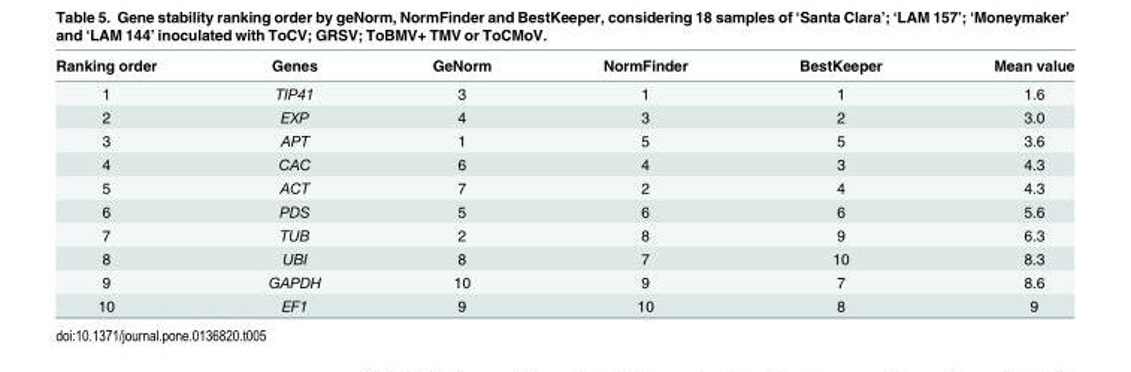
<table><thead><tr><td>Ranking order</td><td>Genes</td><td>GeNorm</td><td>NormFinder</td><td>BestKeeper</td><td>Mean value</td></tr></thead><tbody><tr><td>1</td><td>TIP41</td><td>3</td><td>1</td><td>1</td><td>1.6</td></tr><tr><td>2</td><td>EXP</td><td>4</td><td>3</td><td>2</td><td>3.0</td></tr><tr><td>3</td><td>APT</td><td>1</td><td>5</td><td>5</td><td>3.6</td></tr><tr><td>4</td><td>CAC</td><td>6</td><td>4</td><td>3</td><td>4.3</td></tr><tr><td>5</td><td>ACT</td><td>7</td><td>2</td><td>4</td><td>4.3</td></tr><tr><td>6</td><td>PDS</td><td>5</td><td>6</td><td>6</td><td>5.6</td></tr><tr><td>7</td><td>TUB</td><td>2</td><td>8</td><td>9</td><td>6.3</td></tr><tr><td>8</td><td>UBI</td><td>8</td><td>7</td><td>10</td><td>8.3</td></tr><tr><td>9</td><td>GAPDH</td><td>10</td><td>9</td><td>7</td><td>8.6</td></tr><tr><td>10</td><td>EF1</td><td>9</td><td>10</td><td>8</td><td>9</td></tr></tbody></table>